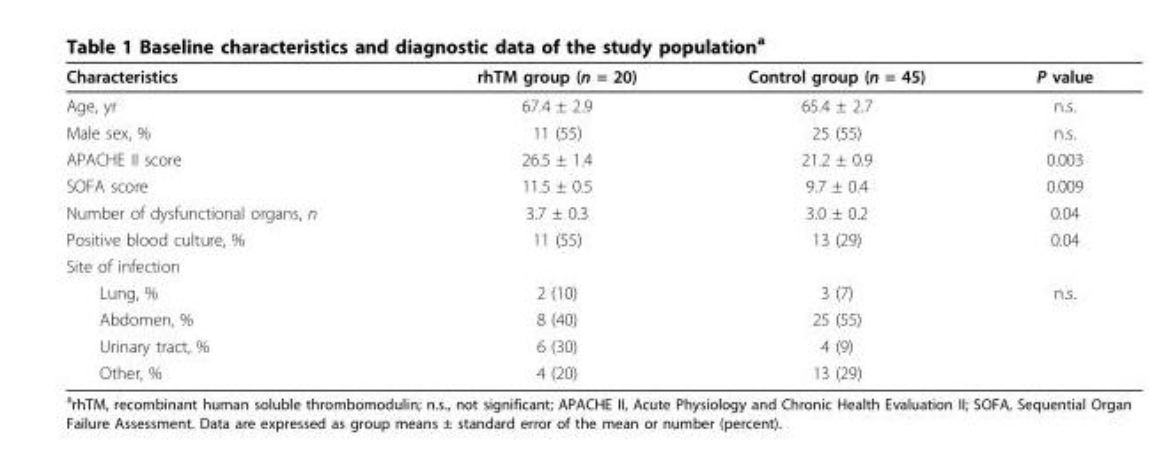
<table><thead><tr><td>Characteristics</td><td>rhTM group (n = 20)</td><td>Control group (n = 45)</td><td>P value</td></tr></thead><tbody><tr><td>Age, yr</td><td>67.4 ± 2.9</td><td>65.4 ± 2.7</td><td>n.s.</td></tr><tr><td>Male sex, %</td><td>11 (55)</td><td>25 (55)</td><td>n.s.</td></tr><tr><td>APACHE II score</td><td>26.5 ± 1.4</td><td>21.2 ± 0.9</td><td>0.003</td></tr><tr><td>SOFA score</td><td>11.5 ± 0.5</td><td>9.7 ± 0.4</td><td>0.009</td></tr><tr><td>Number of dysfunctional organs, n</td><td>3.7 ± 0.3</td><td>3.0 ± 0.2</td><td>0.04</td></tr><tr><td>Positive blood culture, %</td><td>11 (55)</td><td>13 (29)</td><td>0.04</td></tr><tr><td colspan="4">Site of infection</td></tr><tr><td>Lung, %</td><td>2 (10)</td><td>3 (7)</td><td>n.s.</td></tr><tr><td>Abdomen, %</td><td>8 (40)</td><td>25 (55)</td><td></td></tr><tr><td>Urinary tract, %</td><td>6 (30)</td><td>4 (9)</td><td></td></tr><tr><td>Other, %</td><td>4 (20)</td><td>13 (29)</td><td></td></tr></tbody></table>